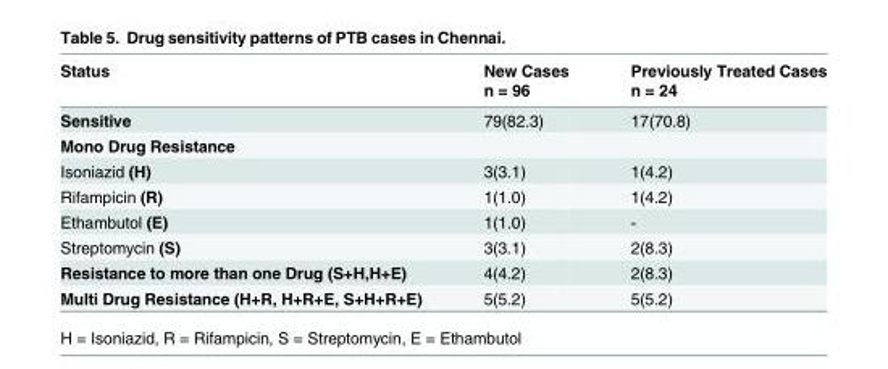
<table><thead><tr><td rowspan="2">Status</td><td rowspan="2">New Cases n = 96</td><td rowspan="2">Previously Treated Cases n = 24</td></tr><tr></tr></thead><tbody><tr><td>Sensitive</td><td>79(82.3)</td><td>17(70.8)</td></tr><tr><td colspan="3">Mono Drug Resistance</td></tr><tr><td>Isoniazid (H)</td><td>3(3.1)</td><td>1(4.2)</td></tr><tr><td>Rifampicin (R)</td><td>1(1.0)</td><td>1(4.2)</td></tr><tr><td>Ethambutol (E)</td><td>1(1.0)</td><td>-</td></tr><tr><td>Streptomycin (S)</td><td>3(3.1)</td><td>2(8.3)</td></tr><tr><td>Resistance to more than one Drug (S+H,H+E)</td><td>4(4.2)</td><td>2(8.3)</td></tr><tr><td>Multi Drug Resistance (H+R, H+R+E, S+H+R+E)</td><td>5(5.2)</td><td>5(5.2)</td></tr></tbody></table>